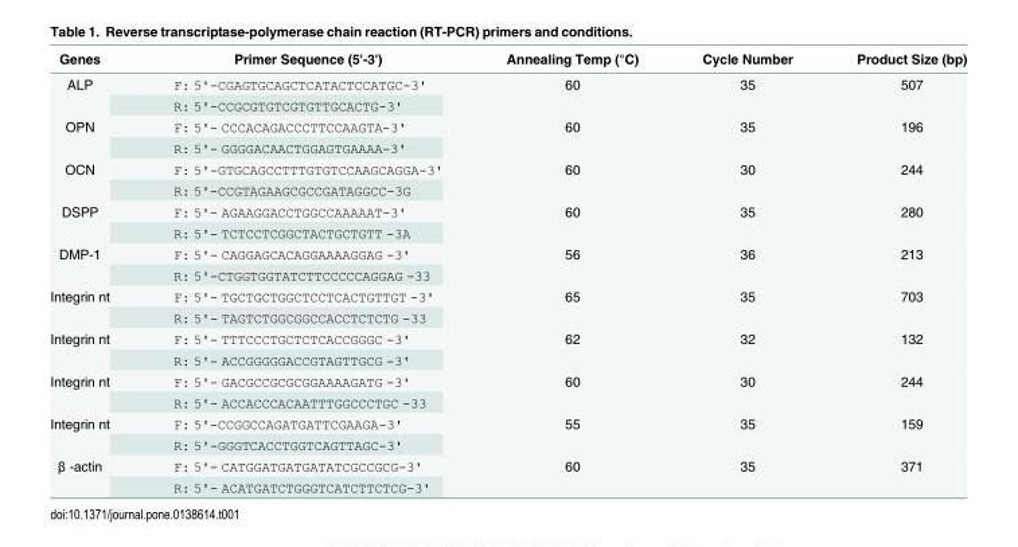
<table><thead><tr><td>Genes</td><td>Primer Sequence (5&#x27;-3&#x27;)</td><td>Annealing Temp (°C)</td><td>Cycle Number</td><td>Product Size (bp)</td></tr></thead><tbody><tr><td rowspan="2">ALP</td><td>F: 5&#x27;-CGAGTGCAGCTCATACTCCATGC-3&#x27;</td><td rowspan="2">60</td><td rowspan="2">35</td><td rowspan="2">507</td></tr><tr><td>R: 5&#x27;-CCGCGTGTCGTGTTGCACTG-3&#x27;</td></tr><tr><td rowspan="2">OPN</td><td>F: 5&#x27;- CCCACAGACCCTTCCAAGTA-3&#x27;</td><td rowspan="2">60</td><td rowspan="2">35</td><td rowspan="2">196</td></tr><tr><td>R: 5&#x27;- GGGGACAACTGGAGTGAAAA-3&#x27;</td></tr><tr><td rowspan="2">OCN</td><td>F: 5&#x27;-GTGCAGCCTTTGTGTCCAAGCAGGA-3&#x27;</td><td rowspan="2">60</td><td rowspan="2">30</td><td rowspan="2">244</td></tr><tr><td>R: 5&#x27;-CCGTAGAAGCGCCGATAGGCC-3G</td></tr><tr><td rowspan="2">DSPP</td><td>F: 5&#x27;- AGAAGGACCTGGCCAAAAAT-3&#x27;</td><td rowspan="2">60</td><td rowspan="2">35</td><td rowspan="2">280</td></tr><tr><td>R: 5&#x27;- TCTCCTCGGCTACTGCTGTT -3A</td></tr><tr><td rowspan="2">DMP-1</td><td>F: 5&#x27;- CAGGAGCACAGGAAAAGGAG -3&#x27;</td><td rowspan="2">56</td><td rowspan="2">36</td><td rowspan="2">213</td></tr><tr><td>R: 5&#x27;-CTGGTGGTATCTTCCCCCAGGAG -33</td></tr><tr><td rowspan="2">Integrin nt</td><td>F: 5&#x27;- TGCTGCTGGCTCCTCACTGTTGT -3&#x27;</td><td rowspan="2">65</td><td rowspan="2">35</td><td rowspan="2">703</td></tr><tr><td>R: 5&#x27;- TAGTCTGGCGGCCACCTCTCTG -33</td></tr><tr><td rowspan="2">Integrin nt</td><td>F: 5&#x27;- TTTCCCTGCTCTCACCGGGC -3&#x27;</td><td rowspan="2">62</td><td rowspan="2">32</td><td rowspan="2">132</td></tr><tr><td>R: 5&#x27;- ACCGGGGGACCGTAGTTGCG -3&#x27;</td></tr><tr><td rowspan="2">Integrin nt</td><td>F: 5&#x27;- GACGCCGCGCGGAAAAGATG -3&#x27;</td><td rowspan="2">60</td><td rowspan="2">30</td><td rowspan="2">244</td></tr><tr><td>R: 5&#x27;- ACCACCCACAATTTGGCCCTGC -33</td></tr><tr><td rowspan="2">Integrin nt</td><td>F: 5&#x27;-CCGGCCAGATGATTCGAAGA-3&#x27;</td><td rowspan="2">55</td><td rowspan="2">35</td><td rowspan="2">159</td></tr><tr><td>R: 5&#x27;-GGGTCACCTGGTCAGTTAGC-3&#x27;</td></tr><tr><td rowspan="2">β -actin</td><td>F: 5&#x27;- CATGGATGATGATATCGCCGCG-3&#x27;</td><td rowspan="2">60</td><td rowspan="2">35</td><td rowspan="2">371</td></tr><tr><td>R: 5&#x27;- ACATGATCTGGGTCATCTTCTCG-3&#x27;</td></tr></tbody></table>